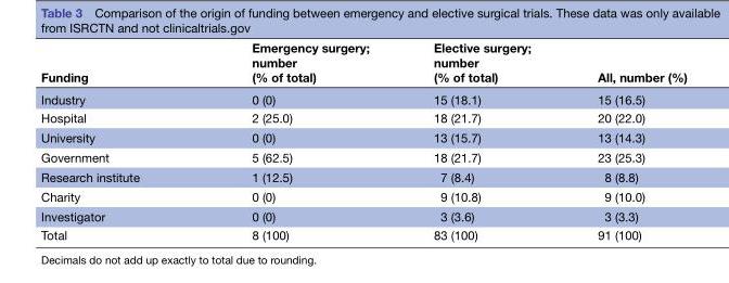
<table><thead><tr><td>Funding</td><td>Emergency surgery; number (% of total)</td><td>Elective surgery; number (% of total)</td><td>All, number (%)</td></tr></thead><tbody><tr><td>Industry</td><td>0 (0)</td><td>15 (18.1)</td><td>15 (16.5)</td></tr><tr><td>Hospital</td><td>2 (25.0)</td><td>18 (21.7)</td><td>20 (22.0)</td></tr><tr><td>University</td><td>0 (0)</td><td>13 (15.7)</td><td>13 (14.3)</td></tr><tr><td>Government</td><td>5 (62.5)</td><td>18 (21.7)</td><td>23 (25.3)</td></tr><tr><td>Research institute</td><td>1 (12.5)</td><td>7 (8.4)</td><td>8 (8.8)</td></tr><tr><td>Charity</td><td>0 (0)</td><td>9 (10.8)</td><td>9 (10.0)</td></tr><tr><td>Investigator</td><td>0 (0)</td><td>3 (3.6)</td><td>3 (3.3)</td></tr><tr><td>Total</td><td>8 (100)</td><td>83 (100)</td><td>91 (100)</td></tr></tbody></table>